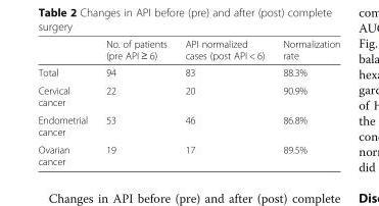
<table><thead><tr><td></td><td>No. of patients (pre API ≥ 6)</td><td>API normalized cases (post API &lt; 6)</td><td>Normalization rate</td></tr></thead><tbody><tr><td>Total</td><td>94</td><td>83</td><td>88.3%</td></tr><tr><td>Cervical cancer</td><td>22</td><td>20</td><td>90.9%</td></tr><tr><td>Endometrial cancer</td><td>53</td><td>46</td><td>86.8%</td></tr><tr><td>Ovarian cancer</td><td>19</td><td>17</td><td>89.5%</td></tr></tbody></table>